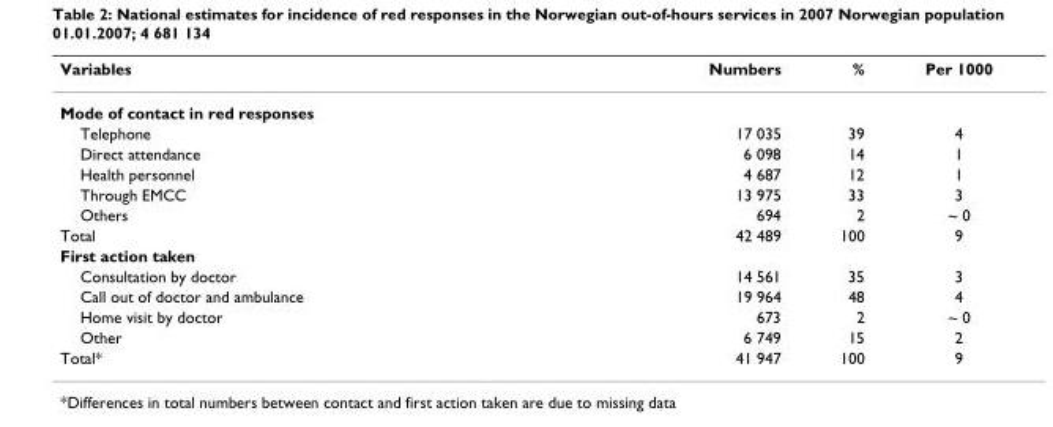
<table><thead><tr><td>Variables</td><td>Numbers</td><td>%</td><td>Per 1000</td></tr></thead><tbody><tr><td colspan="4">Mode of contact in red responses</td></tr><tr><td>Telephone</td><td>17 035</td><td>39</td><td>4</td></tr><tr><td>Direct attendance</td><td>6 098</td><td>14</td><td>1</td></tr><tr><td>Health personnel</td><td>4 687</td><td>12</td><td>1</td></tr><tr><td>Through EMCC</td><td>13 975</td><td>33</td><td>3</td></tr><tr><td>Others</td><td>694</td><td>2</td><td>~ 0</td></tr><tr><td>Total</td><td>42 489</td><td>100</td><td>9</td></tr><tr><td colspan="4">First action taken</td></tr><tr><td>Consultation by doctor</td><td>14 561</td><td>35</td><td>3</td></tr><tr><td>Call out of doctor and ambulance</td><td>19 964</td><td>48</td><td>4</td></tr><tr><td>Home visit by doctor</td><td>673</td><td>2</td><td>~ 0</td></tr><tr><td>Other</td><td>6 749</td><td>15</td><td>2</td></tr><tr><td>Total*</td><td>41 947</td><td>100</td><td>9</td></tr></tbody></table>